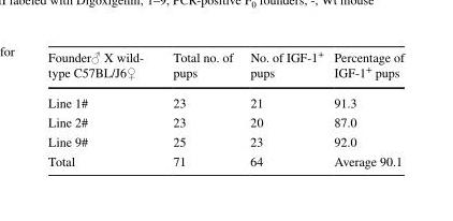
<table><thead><tr><td>Founder♂ X wild- type C57BL/J6♀</td><td>Total no. of pups</td><td>No. of IGF-1<sup>+</sup> pups</td><td>Percentage of IGF-1<sup>+</sup> pups</td></tr></thead><tbody><tr><td>Line 1#</td><td>23</td><td>21</td><td>91.3</td></tr><tr><td>Line 2#</td><td>23</td><td>20</td><td>87.0</td></tr><tr><td>Line 9#</td><td>25</td><td>23</td><td>92.0</td></tr><tr><td>Total</td><td>71</td><td>64</td><td>Average 90.1</td></tr></tbody></table>